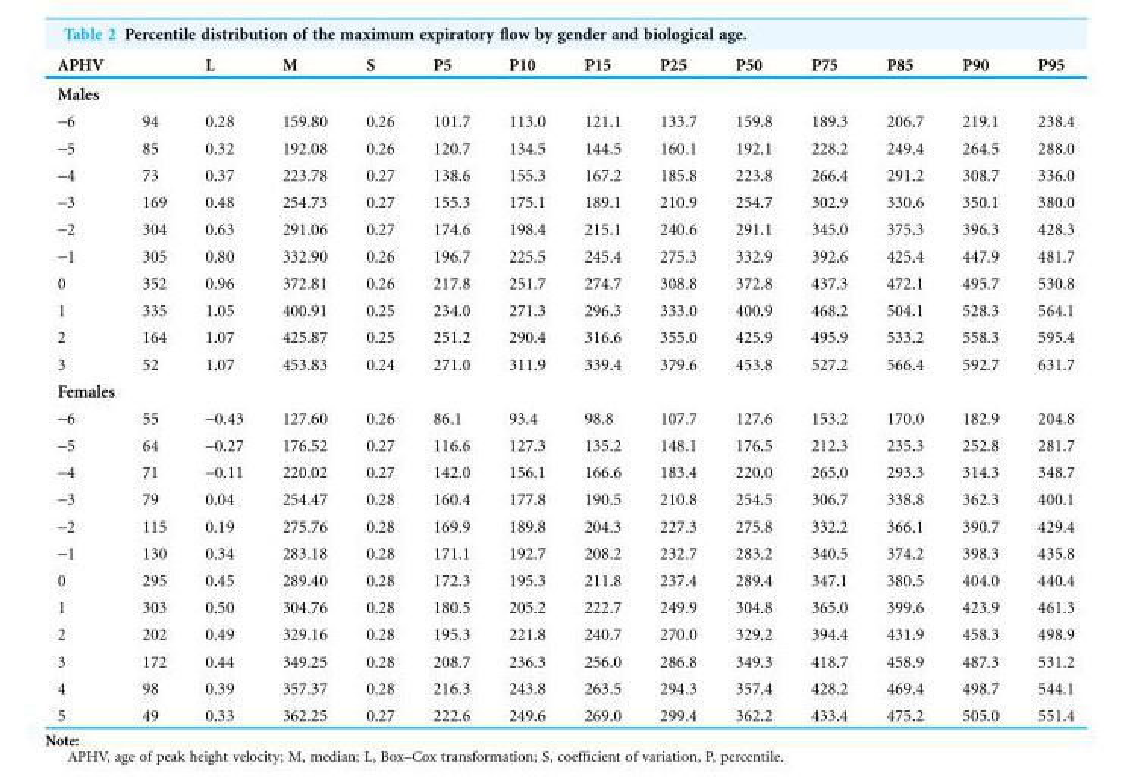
<table><thead><tr><td>APHV</td><td></td><td>L</td><td>M</td><td>S</td><td>P5</td><td>P10</td><td>P15</td><td>P25</td><td>P50</td><td>P75</td><td>P85</td><td>P90</td><td>P95</td></tr></thead><tbody><tr><td colspan="14">Males</td></tr><tr><td>-6</td><td>94</td><td>0.28</td><td>159.80</td><td>0.26</td><td>101.7</td><td>113.0</td><td>121.1</td><td>133.7</td><td>159.8</td><td>189.3</td><td>206.7</td><td>219.1</td><td>238.4</td></tr><tr><td>-5</td><td>85</td><td>0.32</td><td>192.08</td><td>0.26</td><td>120.7</td><td>134.5</td><td>144.5</td><td>160.1</td><td>192.1</td><td>228.2</td><td>249.4</td><td>264.5</td><td>288.0</td></tr><tr><td>-4</td><td>73</td><td>0.37</td><td>223.78</td><td>0.27</td><td>138.6</td><td>155.3</td><td>167.2</td><td>185.8</td><td>223.8</td><td>266.4</td><td>291.2</td><td>308.7</td><td>336.0</td></tr><tr><td>-3</td><td>169</td><td>0.48</td><td>254.73</td><td>0.27</td><td>155.3</td><td>175.1</td><td>189.1</td><td>210.9</td><td>254.7</td><td>302.9</td><td>330.6</td><td>350.1</td><td>380.0</td></tr><tr><td>-2</td><td>304</td><td>0.63</td><td>291.06</td><td>0.27</td><td>174.6</td><td>198.4</td><td>215.1</td><td>240.6</td><td>291.1</td><td>345.0</td><td>375.3</td><td>396.3</td><td>428.3</td></tr><tr><td>-1</td><td>305</td><td>0.80</td><td>332.90</td><td>0.26</td><td>196.7</td><td>225.5</td><td>245.4</td><td>275.3</td><td>332.9</td><td>392.6</td><td>425.4</td><td>447.9</td><td>481.7</td></tr><tr><td>0</td><td>352</td><td>0.96</td><td>372.81</td><td>0.26</td><td>217.8</td><td>251.7</td><td>274.7</td><td>308.8</td><td>372.8</td><td>437.3</td><td>472.1</td><td>495.7</td><td>530.8</td></tr><tr><td>1</td><td>335</td><td>1.05</td><td>400.91</td><td>0.25</td><td>234.0</td><td>271.3</td><td>296.3</td><td>333.0</td><td>400.9</td><td>468.2</td><td>504.1</td><td>528.3</td><td>564.1</td></tr><tr><td>2</td><td>164</td><td>1.07</td><td>425.87</td><td>0.25</td><td>251.2</td><td>290.4</td><td>316.6</td><td>355.0</td><td>425.9</td><td>495.9</td><td>533.2</td><td>558.3</td><td>595.4</td></tr><tr><td>3</td><td>52</td><td>1.07</td><td>453.83</td><td>0.24</td><td>271.0</td><td>311.9</td><td>339.4</td><td>379.6</td><td>453.8</td><td>527.2</td><td>566.4</td><td>592.7</td><td>631.7</td></tr><tr><td colspan="14">Females</td></tr><tr><td>-6</td><td>55</td><td>-0.43</td><td>127.60</td><td>0.26</td><td>86.1</td><td>93.4</td><td>98.8</td><td>107.7</td><td>127.6</td><td>153.2</td><td>170.0</td><td>182.9</td><td>204.8</td></tr><tr><td>-5</td><td>64</td><td>-0.27</td><td>176.52</td><td>0.27</td><td>116.6</td><td>127.3</td><td>135.2</td><td>148.1</td><td>176.5</td><td>212.3</td><td>235.3</td><td>252.8</td><td>281.7</td></tr><tr><td>-4</td><td>71</td><td>-0.11</td><td>220.02</td><td>0.27</td><td>142.0</td><td>156.1</td><td>166.6</td><td>183.4</td><td>220.0</td><td>265.0</td><td>293.3</td><td>314.3</td><td>348.7</td></tr><tr><td>-3</td><td>79</td><td>0.04</td><td>254.47</td><td>0.28</td><td>160.4</td><td>177.8</td><td>190.5</td><td>210.8</td><td>254.5</td><td>306.7</td><td>338.8</td><td>362.3</td><td>400.1</td></tr><tr><td>-2</td><td>115</td><td>0.19</td><td>275.76</td><td>0.28</td><td>169.9</td><td>189.8</td><td>204.3</td><td>227.3</td><td>275.8</td><td>332.2</td><td>366.1</td><td>390.7</td><td>429.4</td></tr><tr><td>-1</td><td>130</td><td>0.34</td><td>283.18</td><td>0.28</td><td>171.1</td><td>192.7</td><td>208.2</td><td>232.7</td><td>283.2</td><td>340.5</td><td>374.2</td><td>398.3</td><td>435.8</td></tr><tr><td>0</td><td>295</td><td>0.45</td><td>289.40</td><td>0.28</td><td>172.3</td><td>195.3</td><td>211.8</td><td>237.4</td><td>289.4</td><td>347.1</td><td>380.5</td><td>404.0</td><td>440.4</td></tr><tr><td>1</td><td>303</td><td>0.50</td><td>304.76</td><td>0.28</td><td>180.5</td><td>205.2</td><td>222.7</td><td>249.9</td><td>304.8</td><td>365.0</td><td>399.6</td><td>423.9</td><td>461.3</td></tr><tr><td>2</td><td>202</td><td>0.49</td><td>329.16</td><td>0.28</td><td>195.3</td><td>221.8</td><td>240.7</td><td>270.0</td><td>329.2</td><td>394.4</td><td>431.9</td><td>458.3</td><td>498.9</td></tr><tr><td>3</td><td>172</td><td>0.44</td><td>349.25</td><td>0.28</td><td>208.7</td><td>236.3</td><td>256.0</td><td>286.8</td><td>349.3</td><td>418.7</td><td>458.9</td><td>487.3</td><td>531.2</td></tr><tr><td>4</td><td>98</td><td>0.39</td><td>357.37</td><td>0.28</td><td>216.3</td><td>243.8</td><td>263.5</td><td>294.3</td><td>357.4</td><td>428.2</td><td>469.4</td><td>498.7</td><td>544.1</td></tr><tr><td>5</td><td>49</td><td>0.33</td><td>362.25</td><td>0.27</td><td>222.6</td><td>249.6</td><td>269.0</td><td>299.4</td><td>362.2</td><td>433.4</td><td>475.2</td><td>505.0</td><td>551.4</td></tr></tbody></table>